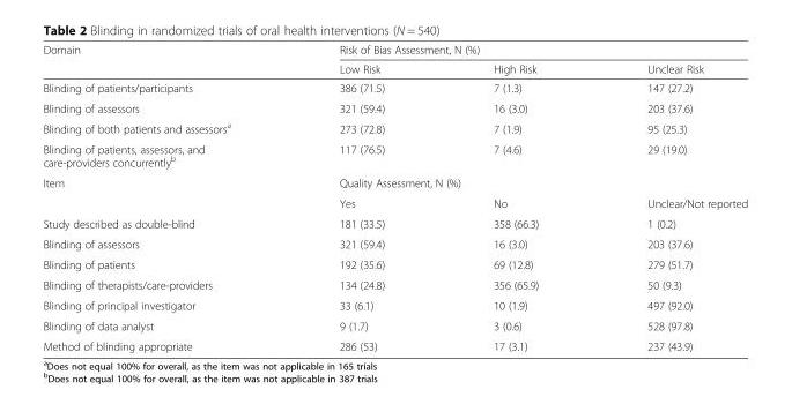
<table><thead><tr><td rowspan="2">Domain</td><td colspan="3">Risk of Bias Assessment, N (%)</td></tr><tr><td>Low Risk</td><td>High Risk</td><td>Unclear Risk</td></tr></thead><tbody><tr><td>Blinding of patients/participants</td><td>386 (71.5)</td><td>7 (1.3)</td><td>147 (27.2)</td></tr><tr><td>Blinding of assessors</td><td>321 (59.4)</td><td>16 (3.0)</td><td>203 (37.6)</td></tr><tr><td>Blinding of both patients and assessors<sup>a</sup></td><td>273 (72.8)</td><td>7 (1.9)</td><td>95 (25.3)</td></tr><tr><td>Blinding of patients, assessors, and care-providers concurrently<sup>b</sup></td><td>117 (76.5)</td><td>7 (4.6)</td><td>29 (19.0)</td></tr><tr><td rowspan="2">Item</td><td colspan="3">Quality Assessment, N (%)</td></tr><tr><td>Yes</td><td>No</td><td>Unclear/Not reported</td></tr><tr><td>Study described as double-blind</td><td>181 (33.5)</td><td>358 (66.3)</td><td>1 (0.2)</td></tr><tr><td>Blinding of assessors</td><td>321 (59.4)</td><td>16 (3.0)</td><td>203 (37.6)</td></tr><tr><td>Blinding of patients</td><td>192 (35.6)</td><td>69 (12.8)</td><td>279 (51.7)</td></tr><tr><td>Blinding of therapists/care-providers</td><td>134 (24.8)</td><td>356 (65.9)</td><td>50 (9.3)</td></tr><tr><td>Blinding of principal investigator</td><td>33 (6.1)</td><td>10 (1.9)</td><td>497 (92.0)</td></tr><tr><td>Blinding of data analyst</td><td>9 (1.7)</td><td>3 (0.6)</td><td>528 (97.8)</td></tr><tr><td>Method of blinding appropriate</td><td>286 (53)</td><td>17 (3.1)</td><td>237 (43.9)</td></tr></tbody></table>